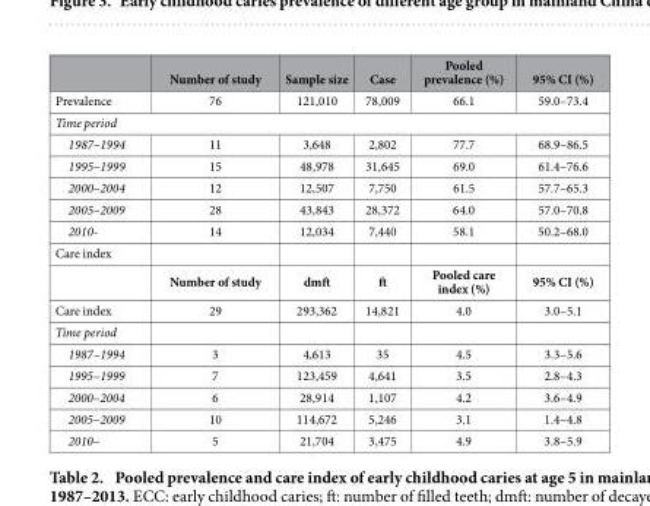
<table><thead><tr><td></td><td>Number of study</td><td>Sample size</td><td>Case</td><td>Pooled prevalence (%)</td><td>95% CI (%)</td></tr></thead><tbody><tr><td>Prevalence</td><td>76</td><td>121,010</td><td>78,009</td><td>66.1</td><td>59.0–73.4</td></tr><tr><td colspan="6">Time period</td></tr><tr><td>1987–1994</td><td>11</td><td>3,648</td><td>2,802</td><td>77.7</td><td>68.9–86.5</td></tr><tr><td>1995–1999</td><td>15</td><td>48,978</td><td>31,645</td><td>69.0</td><td>61.4–76.6</td></tr><tr><td>2000–2004</td><td>12</td><td>12,507</td><td>7,750</td><td>61.5</td><td>57.7–65.3</td></tr><tr><td>2005–2009</td><td>28</td><td>43,843</td><td>28,372</td><td>64.0</td><td>57.0–70.8</td></tr><tr><td rowspan="2">2010- Care index</td><td>14</td><td>12,034</td><td>7,440</td><td>58.1</td><td>50.2–68.0</td></tr><tr><td>Number of study</td><td>dmft</td><td>ft</td><td>Pooled care index (%)</td><td>95% CI (%)</td></tr><tr><td>Care index</td><td>29</td><td>293,362</td><td>14,821</td><td>4.0</td><td>3.0–5.1</td></tr><tr><td colspan="6">Time period</td></tr><tr><td>1987–1994</td><td>3</td><td>4,613</td><td>35</td><td>4.5</td><td>3.3–5.6</td></tr><tr><td>1995–1999</td><td>7</td><td>123,459</td><td>4,641</td><td>3.5</td><td>2.8–4.3</td></tr><tr><td>2000–2004</td><td>6</td><td>28,914</td><td>1,107</td><td>4.2</td><td>3.6–4.9</td></tr><tr><td>2005–2009</td><td>10</td><td>114,672</td><td>5,246</td><td>3.1</td><td>1.4–4.8</td></tr><tr><td>2010–</td><td>5</td><td>21,704</td><td>3,475</td><td>4.9</td><td>3.8–5.9</td></tr></tbody></table>